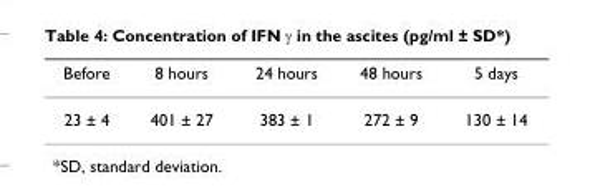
<table><thead><tr><td>Before</td><td>8 hours</td><td>24 hours</td><td>48 hours</td><td>5 days</td></tr></thead><tbody><tr><td>23 ± 4</td><td>401 ± 27</td><td>383 ± 1</td><td>272 ± 9</td><td>130 ± 14</td></tr></tbody></table>